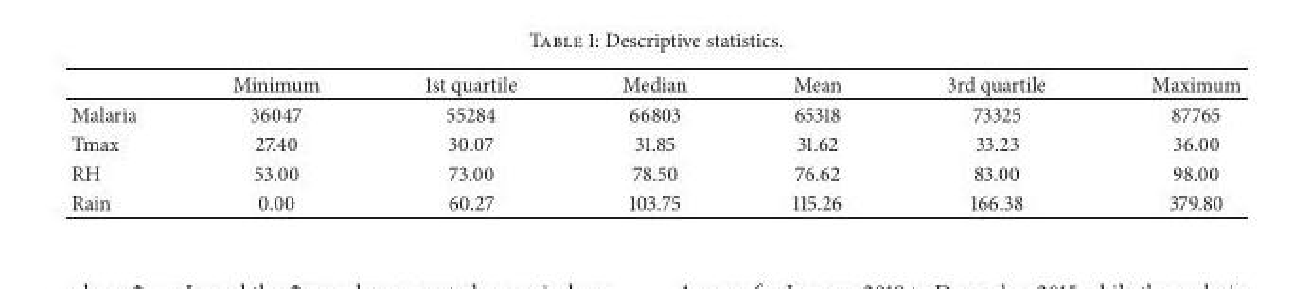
<table><thead><tr><td></td><td>Minimum</td><td>1st quartile</td><td>Median</td><td>Mean</td><td>3rd quartile</td><td>Maximum</td></tr></thead><tbody><tr><td>Malaria</td><td>36047</td><td>55284</td><td>66803</td><td>65318</td><td>73325</td><td>87765</td></tr><tr><td>Tmax</td><td>27.40</td><td>30.07</td><td>31.85</td><td>31.62</td><td>33.23</td><td>36.00</td></tr><tr><td>RH</td><td>53.00</td><td>73.00</td><td>78.50</td><td>76.62</td><td>83.00</td><td>98.00</td></tr><tr><td>Rain</td><td>0.00</td><td>60.27</td><td>103.75</td><td>115.26</td><td>166.38</td><td>379.80</td></tr></tbody></table>